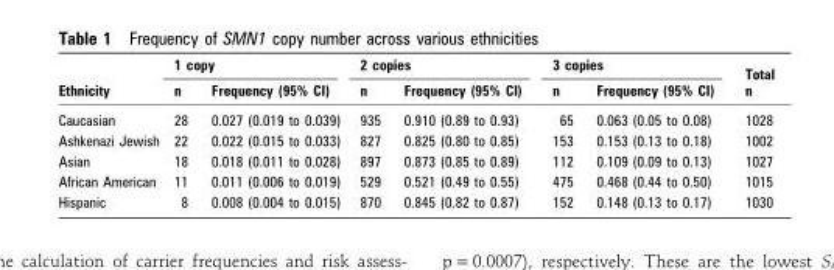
<table><thead><tr><td rowspan="2">Ethnicity</td><td colspan="2">1 copy</td><td colspan="2">2 copies</td><td colspan="2">3 copies</td><td rowspan="2">Total n</td></tr><tr><td>n</td><td>Frequency (95% CI)</td><td>n</td><td>Frequency (95% CI)</td><td>n</td><td>Frequency (95% CI)</td></tr></thead><tbody><tr><td>Caucasian</td><td>28</td><td>0.027 (0.019 to 0.039)</td><td>935</td><td>0.910 (0.89 to 0.93)</td><td>65</td><td>0.063 (0.05 to 0.08)</td><td>1028</td></tr><tr><td>Ashkenazi Jewish</td><td>22</td><td>0.022 (0.015 to 0.033)</td><td>827</td><td>0.825 (0.80 to 0.85)</td><td>153</td><td>0.153 (0.13 to 0.18)</td><td>1002</td></tr><tr><td>Asian</td><td>18</td><td>0.018 (0.011 to 0.028)</td><td>897</td><td>0.873 (0.85 to 0.89)</td><td>112</td><td>0.109 (0.09 to 0.13)</td><td>1027</td></tr><tr><td>African American</td><td>11</td><td>0.011 (0.006 to 0.019)</td><td>529</td><td>0.521 (0.49 to 0.55)</td><td>475</td><td>0.468 (0.44 to 0.50)</td><td>1015</td></tr><tr><td>Hispanic</td><td>8</td><td>0.008 (0.004 to 0.015)</td><td>870</td><td>0.845 (0.82 to 0.87)</td><td>152</td><td>0.148 (0.13 to 0.17)</td><td>1030</td></tr></tbody></table>